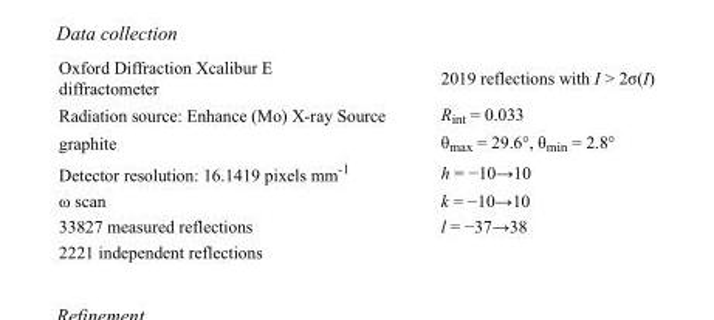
<table><tbody><tr><td>Oxford Diffraction Xcalibur E diffractometer</td><td>2019 reflections with I &gt; 2σ(I)</td></tr><tr><td>Radiation source: Enhance (Mo) X-ray Source</td><td>R<sub>int</sub> = 0.033</td></tr><tr><td>graphite</td><td>θ<sub>max</sub> = 29.6°, θ<sub>min</sub> = 2.8°</td></tr><tr><td>Detector resolution: 16.1419 pixels mm<sup>-1</sup></td><td>h = −10→10</td></tr><tr><td>ω scan</td><td>k = −10→10</td></tr><tr><td>33827 measured reflections</td><td>l = −37→38</td></tr><tr><td>2221 independent reflections</td><td></td></tr></tbody></table>